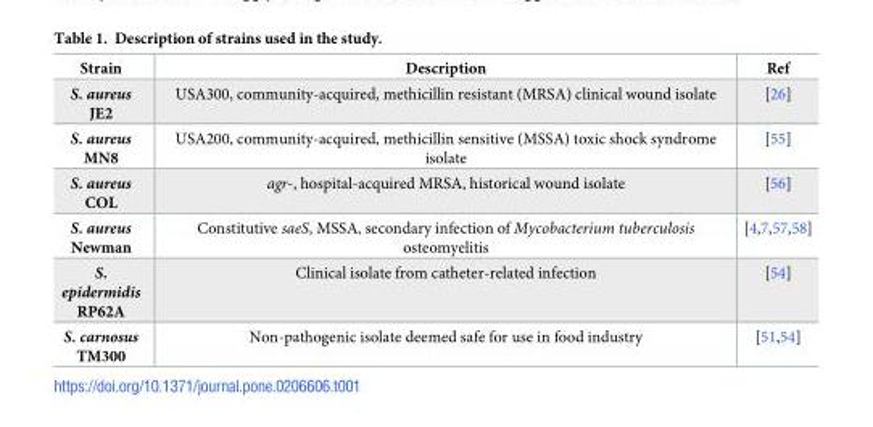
<table><thead><tr><td>Strain</td><td>Description</td><td>Ref</td></tr></thead><tbody><tr><td>S. aureus JE2</td><td>USA300, community-acquired, methicillin resistant (MRSA) clinical wound isolate</td><td>[26]</td></tr><tr><td>S. aureus MN8</td><td>USA200, community-acquired, methicillin sensitive (MSSA) toxic shock syndrome isolate</td><td>[55]</td></tr><tr><td>S. aureus COL</td><td>agr-, hospital-acquired MRSA, historical wound isolate</td><td>[56]</td></tr><tr><td>S. aureus Newman</td><td>Constitutive saeS, MSSA, secondary infection of Mycobacterium tuberculosis osteomyelitis</td><td>[4,7,57,58]</td></tr><tr><td>S. epidermidis RP62A</td><td>Clinical isolate from catheter-related infection</td><td>[54]</td></tr><tr><td>S. carnosus TM300</td><td>Non-pathogenic isolate deemed safe for use in food industry</td><td>[51,54]</td></tr></tbody></table>